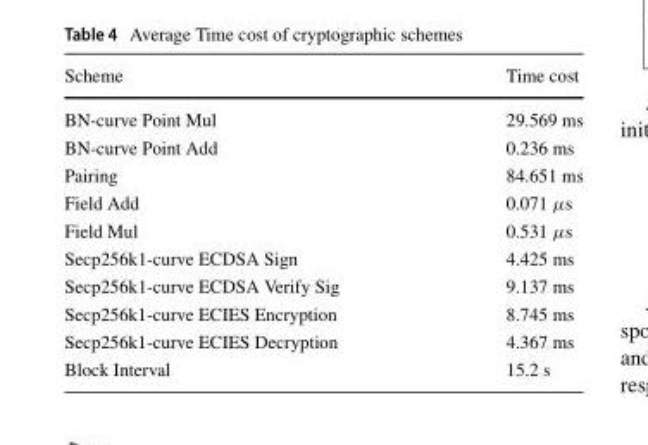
<table><thead><tr><td>Scheme</td><td>Time cost</td></tr></thead><tbody><tr><td>BN-curve Point Mul</td><td>29.569 ms</td></tr><tr><td>BN-curve Point Add</td><td>0.236 ms</td></tr><tr><td>Pairing</td><td>84.651 ms</td></tr><tr><td>Field Add</td><td>0.071 μs</td></tr><tr><td>Field Mul</td><td>0.531 μs</td></tr><tr><td>Secp256k1-curve ECDSA Sign</td><td>4.425 ms</td></tr><tr><td>Secp256k1-curve ECDSA Verify Sig</td><td>9.137 ms</td></tr><tr><td>Secp256k1-curve ECIES Encryption</td><td>8.745 ms</td></tr><tr><td>Secp256k1-curve ECIES Decryption</td><td>4.367 ms</td></tr><tr><td>Block Interval</td><td>15.2 s</td></tr></tbody></table>